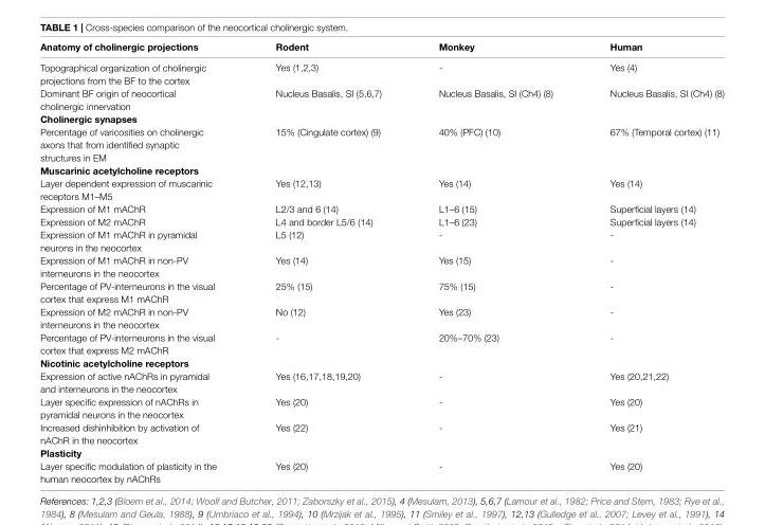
<table><thead><tr><td>Anatomy of cholinergic projections</td><td>Rodent</td><td>Monkey</td><td>Human</td></tr></thead><tbody><tr><td>Topographical organization of cholinergic projections from the BF to the cortex</td><td>Yes (1,2,3)</td><td>-</td><td>Yes (4)</td></tr><tr><td>Dominant BF origin of neocortical cholinergic innervation</td><td>Nucleus Basalis, SI (5,6,7)</td><td>Nucleus Basalis, SI (Ch4) (8)</td><td>Nucleus Basalis, SI (Ch4) (8)</td></tr><tr><td colspan="4">Cholinergic synapses</td></tr><tr><td>Percentage of varicosities on cholinergic axons that from identified synaptic structures in EM</td><td>15% (Cingulate cortex) (9)</td><td>40% (PFC) (10)</td><td>67% (Temporal cortex) (11)</td></tr><tr><td colspan="4">Muscarinic acetylcholine receptors</td></tr><tr><td>Layer dependent expression of muscarinic receptors M1–M5</td><td>Yes (12,13)</td><td>Yes (14)</td><td>Yes (14)</td></tr><tr><td>Expression of M1 mAChR</td><td>L2/3 and 6 (14)</td><td>L1–6 (15)</td><td>Superficial layers (14)</td></tr><tr><td>Expression of M2 mAChR</td><td>L4 and border L5/6 (14)</td><td>L1–6 (23)</td><td>Superficial layers (14)</td></tr><tr><td>Expression of M1 mAChR in pyramidal neurons in the neocortex</td><td>L5 (12)</td><td>-</td><td>-</td></tr><tr><td>Expression of M1 mAChR in non-PV interneurons in the neocortex</td><td>Yes (14)</td><td>Yes (15)</td><td>-</td></tr><tr><td>Percentage of PV-interneurons in the visual cortex that express M1 mAChR</td><td>25% (15)</td><td>75% (15)</td><td>-</td></tr><tr><td>Expression of M2 mAChR in non-PV interneurons in the neocortex</td><td>No (12)</td><td>Yes (23)</td><td>-</td></tr><tr><td>Percentage of PV-interneurons in the visual cortex that express M2 mAChR</td><td>-</td><td>20%–70% (23)</td><td>-</td></tr><tr><td colspan="4">Nicotinic acetylcholine receptors</td></tr><tr><td>Expression of active nAChRs in pyramidal and interneurons in the neocortex</td><td>Yes (16,17,18,19,20)</td><td>-</td><td>Yes (20,21,22)</td></tr><tr><td>Layer specific expression of nAChRs in pyramidal neurons in the neocortex</td><td>Yes (20)</td><td>-</td><td>Yes (20)</td></tr><tr><td>Increased dishinhibition by activation of nAChR in the neocortex</td><td>Yes (22)</td><td>-</td><td>Yes (21)</td></tr><tr><td colspan="4">Plasticity</td></tr><tr><td>Layer specific modulation of plasticity in the human neocortex by nAChRs</td><td>Yes (20)</td><td>-</td><td>Yes (20)</td></tr></tbody></table>